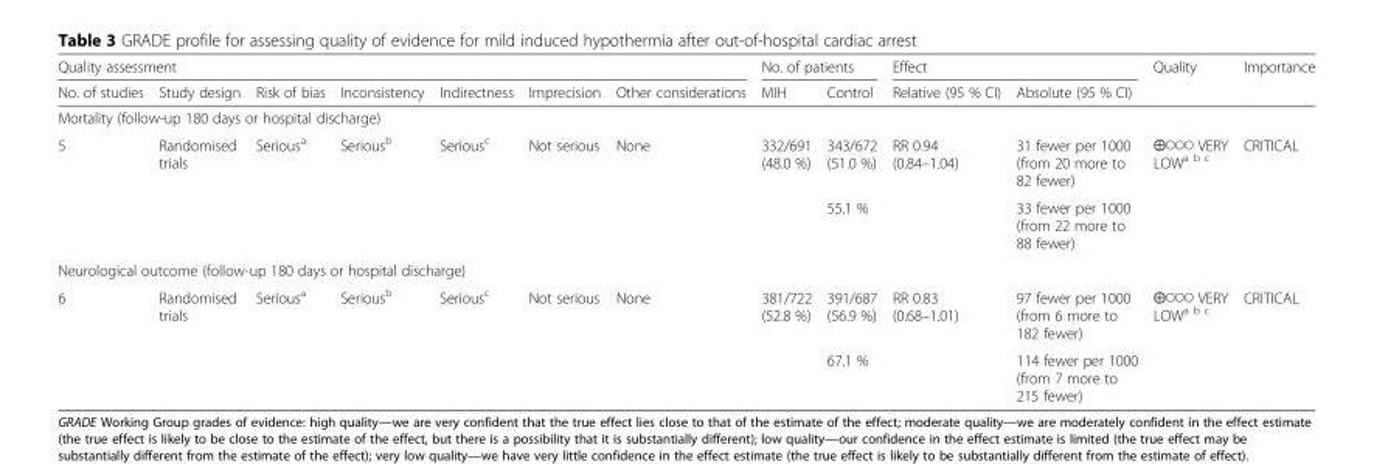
<table><thead><tr><td colspan="7">Quality assessment</td><td colspan="2">No. of patients</td><td colspan="2">Effect</td><td rowspan="2">Quality</td><td rowspan="2">Importance</td></tr><tr><td>No. of studies</td><td>Study design</td><td>Risk of bias</td><td>Inconsistency</td><td>Indirectness</td><td>Imprecision</td><td>Other considerations</td><td>MIH</td><td>Control</td><td>Relative (95 % CI)</td><td>Absolute (95 % CI)</td></tr></thead><tbody><tr><td colspan="13">Mortality (follow-up 180 days or hospital discharge)</td></tr><tr><td rowspan="2">5</td><td rowspan="2">Randomised trials</td><td rowspan="2">Serious<sup>a</sup></td><td rowspan="2">Serious<sup>b</sup></td><td rowspan="2">Serious<sup>c</sup></td><td rowspan="2">Not serious</td><td rowspan="2">None</td><td rowspan="2">332/691 (48.0 %)</td><td>343/672 (51.0 %)</td><td rowspan="2">RR 0.94 (0.84–1.04)</td><td>31 fewer per 1000 (from 20 more to 82 fewer)</td><td rowspan="2">⨁◯◯◯ VERY LOW<sup>a b c</sup></td><td rowspan="2">CRITICAL</td></tr><tr><td>55.1 %</td><td>33 fewer per 1000 (from 22 more to 88 fewer)</td></tr><tr><td colspan="13">Neurological outcome (follow-up 180 days or hospital discharge)</td></tr><tr><td rowspan="2">6</td><td rowspan="2">Randomised trials</td><td rowspan="2">Serious<sup>a</sup></td><td rowspan="2">Serious<sup>b</sup></td><td rowspan="2">Serious<sup>c</sup></td><td rowspan="2">Not serious</td><td rowspan="2">None</td><td rowspan="2">381/722 (52.8 %)</td><td>391/687 (56.9 %)</td><td rowspan="2">RR 0.83 (0.68–1.01)</td><td>97 fewer per 1000 (from 6 more to 182 fewer)</td><td rowspan="2">⨁◯◯◯ VERY LOW<sup>a b c</sup></td><td rowspan="2">CRITICAL</td></tr><tr><td>67.1 %</td><td>114 fewer per 1000 (from 7 more to 215 fewer)</td></tr></tbody></table>